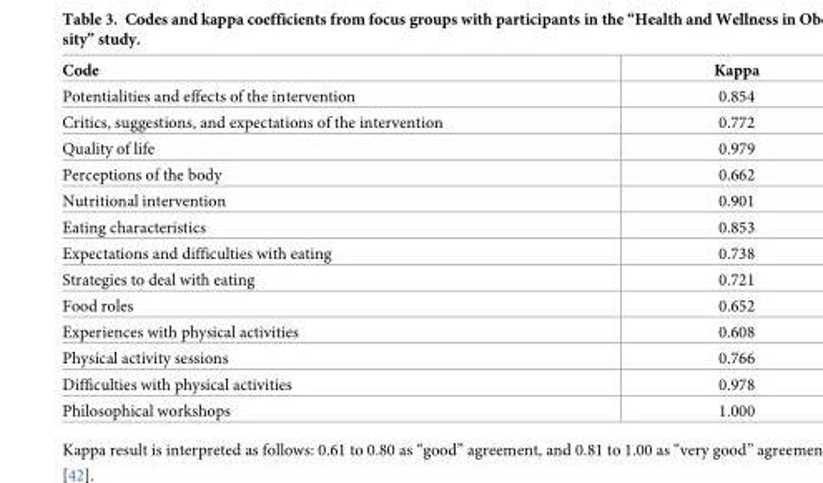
<table><thead><tr><td>Code</td><td>Kappa</td></tr></thead><tbody><tr><td>Potentialities and effects of the intervention</td><td>0.854</td></tr><tr><td>Critics, suggestions, and expectations of the intervention</td><td>0.772</td></tr><tr><td>Quality of life</td><td>0.979</td></tr><tr><td>Perceptions of the body</td><td>0.662</td></tr><tr><td>Nutritional intervention</td><td>0.901</td></tr><tr><td>Eating characteristics</td><td>0.853</td></tr><tr><td>Expectations and difficulties with eating</td><td>0.738</td></tr><tr><td>Strategies to deal with eating</td><td>0.721</td></tr><tr><td>Food roles</td><td>0.652</td></tr><tr><td>Experiences with physical activities</td><td>0.608</td></tr><tr><td>Physical activity sessions</td><td>0.766</td></tr><tr><td>Difficulties with physical activities</td><td>0.978</td></tr><tr><td>Philosophical workshops</td><td>1.000</td></tr></tbody></table>